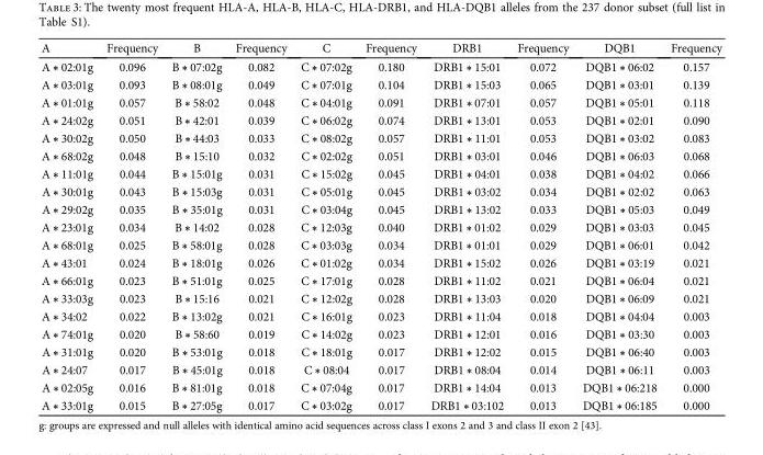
<table><thead><tr><td>A</td><td>Frequency</td><td>B</td><td>Frequency</td><td>C</td><td>Frequency</td><td>DRB1</td><td>Frequency</td><td>DQB1</td><td>Frequency</td></tr></thead><tbody><tr><td>A ∗02:01g</td><td>0.096</td><td>B ∗07:02g</td><td>0.082</td><td>C ∗07:02g</td><td>0.180</td><td>DRB1 ∗15:01</td><td>0.072</td><td>DQB1∗ 06:02</td><td>0.157</td></tr><tr><td>A ∗03:01g</td><td>0.093</td><td>B ∗08:01g</td><td>0.049</td><td>C ∗07:01g</td><td>0.104</td><td>DRB1 ∗15:03</td><td>0.065</td><td>DQB1∗ 03:01</td><td>0.139</td></tr><tr><td>A ∗01:01g</td><td>0.057</td><td>B∗58:02</td><td>0.048</td><td>C ∗04:01g</td><td>0.091</td><td>DRB1 ∗07:01</td><td>0.057</td><td>DQB1∗ 05:01</td><td>0.118</td></tr><tr><td>A ∗24:02g</td><td>0.051</td><td>B∗42:01</td><td>0.039</td><td>C ∗06:02g</td><td>0.074</td><td>DRB1 ∗13:01</td><td>0.053</td><td>DQB1∗ 02:01</td><td>0.090</td></tr><tr><td>A ∗30:02g</td><td>0.050</td><td>B∗44:03</td><td>0.033</td><td>C ∗08:02g</td><td>0.057</td><td>DRB1 ∗11:01</td><td>0.053</td><td>DQB1∗ 03:02</td><td>0.083</td></tr><tr><td>A ∗68:02g</td><td>0.048</td><td>B∗15:10</td><td>0.032</td><td>C ∗02:02g</td><td>0.051</td><td>DRB1 ∗03:01</td><td>0.046</td><td>DQB1∗ 06:03</td><td>0.068</td></tr><tr><td>A ∗11:01g</td><td>0.044</td><td>B ∗15:01g</td><td>0.031</td><td>C ∗15:02g</td><td>0.045</td><td>DRB1 ∗04:01</td><td>0.038</td><td>DQB1∗ 04:02</td><td>0.066</td></tr><tr><td>A ∗30:01g</td><td>0.043</td><td>B ∗15:03g</td><td>0.031</td><td>C ∗05:01g</td><td>0.045</td><td>DRB1 ∗03:02</td><td>0.034</td><td>DQB1∗ 02:02</td><td>0.063</td></tr><tr><td>A ∗29:02g</td><td>0.035</td><td>B ∗35:01g</td><td>0.031</td><td>C ∗03:04g</td><td>0.045</td><td>DRB1 ∗13:02</td><td>0.033</td><td>DQB1∗ 05:03</td><td>0.049</td></tr><tr><td>A ∗23:01g</td><td>0.034</td><td>B∗14:02</td><td>0.028</td><td>C ∗12:03g</td><td>0.040</td><td>DRB1 ∗01:02</td><td>0.029</td><td>DQB1∗ 03:03</td><td>0.045</td></tr><tr><td>A ∗68:01g</td><td>0.025</td><td>B ∗58:01g</td><td>0.028</td><td>C ∗03:03g</td><td>0.034</td><td>DRB1 ∗01:01</td><td>0.029</td><td>DQB1∗ 06:01</td><td>0.042</td></tr><tr><td>A ∗43:01</td><td>0.024</td><td>B ∗18:01g</td><td>0.026</td><td>C ∗01:02g</td><td>0.034</td><td>DRB1 ∗15:02</td><td>0.026</td><td>DQB1∗ 03:19</td><td>0.021</td></tr><tr><td>A ∗66:01g</td><td>0.023</td><td>B ∗51:01g</td><td>0.025</td><td>C ∗17:01g</td><td>0.028</td><td>DRB1 ∗11:02</td><td>0.021</td><td>DQB1∗ 06:04</td><td>0.021</td></tr><tr><td>A ∗33:03g</td><td>0.023</td><td>B∗15:16</td><td>0.021</td><td>C ∗12:02g</td><td>0.028</td><td>DRB1 ∗13:03</td><td>0.020</td><td>DQB1∗ 06:09</td><td>0.021</td></tr><tr><td>A ∗34:02</td><td>0.022</td><td>B ∗13:02g</td><td>0.021</td><td>C ∗16:01g</td><td>0.023</td><td>DRB1 ∗11:04</td><td>0.018</td><td>DQB1∗ 04:04</td><td>0.003</td></tr><tr><td>A ∗74:01g</td><td>0.020</td><td>B∗58:60</td><td>0.019</td><td>C ∗14:02g</td><td>0.023</td><td>DRB1 ∗12:01</td><td>0.016</td><td>DQB1∗ 03:30</td><td>0.003</td></tr><tr><td>A ∗31:01g</td><td>0.020</td><td>B ∗53:01g</td><td>0.018</td><td>C ∗18:01g</td><td>0.017</td><td>DRB1 ∗12:02</td><td>0.015</td><td>DQB1∗ 06:40</td><td>0.003</td></tr><tr><td>A ∗24:07</td><td>0.017</td><td>B ∗45:01g</td><td>0.018</td><td>C ∗08:04</td><td>0.017</td><td>DRB1 ∗08:04</td><td>0.014</td><td>DQB1∗ 06:11</td><td>0.003</td></tr><tr><td>A ∗02:05g</td><td>0.016</td><td>B ∗81:01g</td><td>0.018</td><td>C ∗07:04g</td><td>0.017</td><td>DRB1 ∗14:04</td><td>0.013</td><td>DQB1∗ 06:218</td><td>0.000</td></tr><tr><td>A ∗33:01g</td><td>0.015</td><td>B ∗27:05g</td><td>0.017</td><td>C ∗03:02g</td><td>0.017</td><td>DRB1 ∗03:102</td><td>0.013</td><td>DQB1∗ 06:185</td><td>0.000</td></tr></tbody></table>